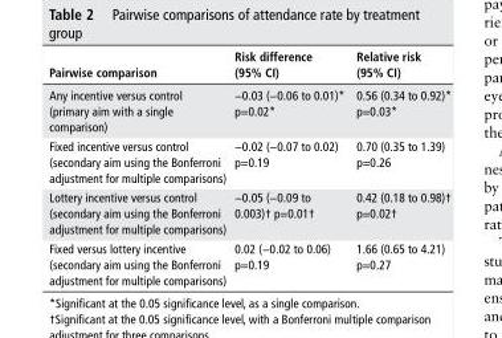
<table><thead><tr><td>Pairwise comparison</td><td>risk difference (95% CI)</td><td>relative risk (95% CI)</td></tr></thead><tbody><tr><td>Any incentive versus control (primary aim with a single comparison)</td><td>−0.03 (−0.06 to 0.01)* p=0.02*</td><td>0.56 (0.34 to 0.92)* p=0.03*</td></tr><tr><td>Fixed incentive versus control (secondary aim using the Bonferroni adjustment for multiple comparisons)</td><td>−0.02 (−0.07 to 0.02) p=0.19</td><td>0.70 (0.35 to 1.39) p=0.26</td></tr><tr><td>Lottery incentive versus control (secondary aim using the Bonferroni adjustment for multiple comparisons)</td><td>−0.05 (−0.09 to 0.003)† p=0.01†</td><td>0.42 (0.18 to 0.98)† p=0.02†</td></tr><tr><td>Fixed versus lottery incentive (secondary aim using the Bonferroni adjustment for multiple comparisons)</td><td>0.02 (−0.02 to 0.06) p=0.19</td><td>1.66 (0.65 to 4.21) p=0.27</td></tr></tbody></table>